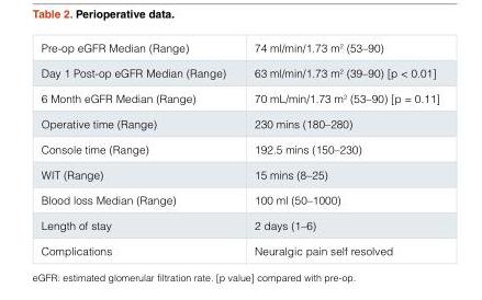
<table><tbody><tr><td>Pre-op eGFR Median (Range)</td><td>74 ml/min/1.73 m<sup>2</sup> (53–90)</td></tr><tr><td>Day 1 Post-op eGFR Median (Range)</td><td>63 ml/min/1.73 m<sup>2</sup> (39–90) [p &lt; 0.01]</td></tr><tr><td>6 Month eGFR Median (Range)</td><td>70 mL/min/1.73 m<sup>2</sup> (53–90) [p = 0.11]</td></tr><tr><td>Operative time (Range)</td><td>230 mins (180–280)</td></tr><tr><td>Console time (Range)</td><td>192.5 mins (150–230)</td></tr><tr><td>WIT (Range)</td><td>15 mins (8–25)</td></tr><tr><td>Blood loss Median (Range)</td><td>100 ml (50–1000)</td></tr><tr><td>Length of stay</td><td>2 days (1–6)</td></tr><tr><td>Complications</td><td>Neuralgic pain self resolved</td></tr></tbody></table>